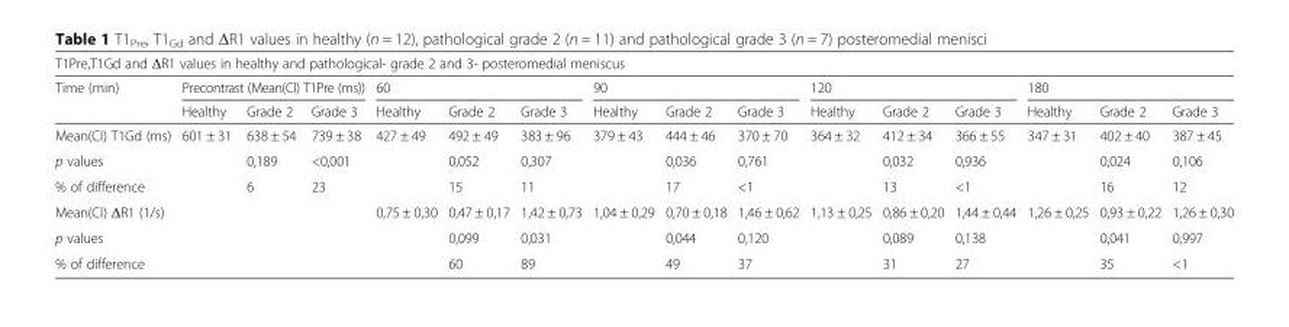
<table><thead><tr><td colspan="16">T1Pre,T1Gd and ΔR1 values in healthy and pathological- grade 2 and 3- posteromedial meniscus</td></tr><tr><td rowspan="2">Time (min)</td><td colspan="3">Precontrast (Mean(CI) T1Pre (ms))</td><td colspan="3">60</td><td colspan="3">90</td><td colspan="3">120</td><td colspan="3">180</td></tr><tr><td>Healthy</td><td>Grade 2</td><td>Grade 3</td><td>Healthy</td><td>Grade 2</td><td>Grade 3</td><td>Healthy</td><td>Grade 2</td><td>Grade 3</td><td>Healthy</td><td>Grade 2</td><td>Grade 3</td><td>Healthy</td><td>Grade 2</td><td>Grade 3</td></tr></thead><tbody><tr><td>Mean(CI) T1Gd (ms)</td><td>601 ± 31</td><td>638 ± 54</td><td>739 ± 38</td><td>427 ± 49</td><td>492 ± 49</td><td>383 ± 96</td><td>379 ± 43</td><td>444 ± 46</td><td>370 ± 70</td><td>364 ± 32</td><td>412 ± 34</td><td>366 ± 55</td><td>347 ± 31</td><td>402 ± 40</td><td>387 ± 45</td></tr><tr><td>p values</td><td></td><td>0,189</td><td>&lt;0,001</td><td></td><td>0,052</td><td>0,307</td><td></td><td>0,036</td><td>0,761</td><td></td><td>0,032</td><td>0,936</td><td></td><td>0,024</td><td>0,106</td></tr><tr><td>% of difference</td><td></td><td>6</td><td>23</td><td></td><td>15</td><td>11</td><td></td><td>17</td><td>&lt;1</td><td></td><td>13</td><td>&lt;1</td><td></td><td>16</td><td>12</td></tr><tr><td>Mean(CI) ΔR1 (1/s)</td><td></td><td></td><td></td><td>0,75 ± 0,30</td><td>0,47 ± 0,17</td><td>1,42 ± 0,73</td><td>1,04 ± 0,29</td><td>0,70 ± 0,18</td><td>1,46 ± 0,62</td><td>1,13 ± 0,25</td><td>0,86 ± 0,20</td><td>1,44 ± 0,44</td><td>1,26 ± 0,25</td><td>0,93 ± 0,22</td><td>1,26 ± 0,30</td></tr><tr><td>p values</td><td></td><td></td><td></td><td></td><td>0,099</td><td>0,031</td><td></td><td>0,044</td><td>0,120</td><td></td><td>0,089</td><td>0,138</td><td></td><td>0,041</td><td>0,997</td></tr><tr><td>% of difference</td><td></td><td></td><td></td><td></td><td>60</td><td>89</td><td></td><td>49</td><td>37</td><td></td><td>31</td><td>27</td><td></td><td>35</td><td>&lt;1</td></tr></tbody></table>